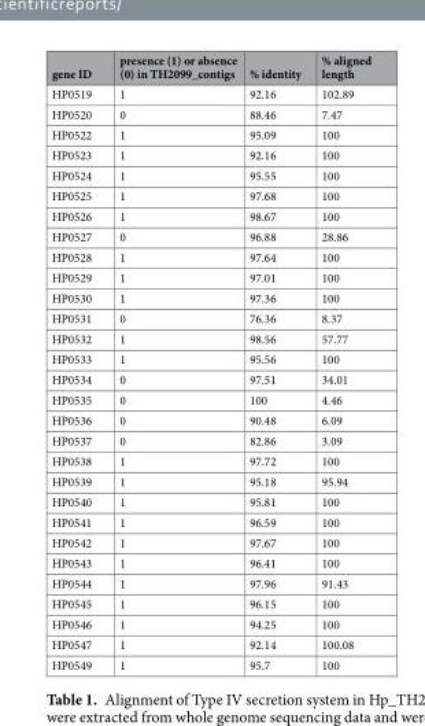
<table><thead><tr><td>gene ID</td><td>presence (1) or absence (0) in TH2099_contigs</td><td>% identity</td><td>% aligned length</td></tr></thead><tbody><tr><td>HP0519</td><td>1</td><td>92.16</td><td>102.89</td></tr><tr><td>HP0520</td><td>0</td><td>88.46</td><td>7.47</td></tr><tr><td>HP0522</td><td>1</td><td>95.09</td><td>100</td></tr><tr><td>HP0523</td><td>1</td><td>92.16</td><td>100</td></tr><tr><td>HP0524</td><td>1</td><td>95.55</td><td>100</td></tr><tr><td>HP0525</td><td>1</td><td>97.68</td><td>100</td></tr><tr><td>HP0526</td><td>1</td><td>98.67</td><td>100</td></tr><tr><td>HP0527</td><td>0</td><td>96.88</td><td>28.86</td></tr><tr><td>HP0528</td><td>1</td><td>97.64</td><td>100</td></tr><tr><td>HP0529</td><td>1</td><td>97.01</td><td>100</td></tr><tr><td>HP0530</td><td>1</td><td>97.36</td><td>100</td></tr><tr><td>HP0531</td><td>0</td><td>76.36</td><td>8.37</td></tr><tr><td>HP0532</td><td>1</td><td>98.56</td><td>57.77</td></tr><tr><td>HP0533</td><td>1</td><td>95.56</td><td>100</td></tr><tr><td>HP0534</td><td>0</td><td>97.51</td><td>34.01</td></tr><tr><td>HP0535</td><td>0</td><td>100</td><td>4.46</td></tr><tr><td>HP0536</td><td>0</td><td>90.48</td><td>6.09</td></tr><tr><td>HP0537</td><td>0</td><td>82.86</td><td>3.09</td></tr><tr><td>HP0538</td><td>1</td><td>97.72</td><td>100</td></tr><tr><td>HP0539</td><td>1</td><td>95.18</td><td>95.94</td></tr><tr><td>HP0540</td><td>1</td><td>95.81</td><td>100</td></tr><tr><td>HP0541</td><td>1</td><td>96.59</td><td>100</td></tr><tr><td>HP0542</td><td>1</td><td>97.67</td><td>100</td></tr><tr><td>HP0543</td><td>1</td><td>96.41</td><td>100</td></tr><tr><td>HP0544</td><td>1</td><td>97.96</td><td>91.43</td></tr><tr><td>HP0545</td><td>1</td><td>96.15</td><td>100</td></tr><tr><td>HP0546</td><td>1</td><td>94.25</td><td>100</td></tr><tr><td>HP0547</td><td>1</td><td>92.14</td><td>100.08</td></tr><tr><td>HP0549</td><td>1</td><td>95.7</td><td>100</td></tr></tbody></table>